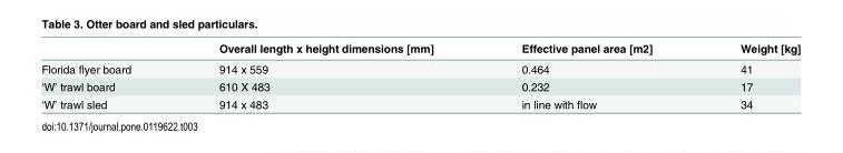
<table><thead><tr><td></td><td>Overall length x height dimensions [mm]</td><td>Effective panel area [m2]</td><td>Weight [kg]</td></tr></thead><tbody><tr><td>Florida flyer board</td><td>914 x 559</td><td>0.464</td><td>41</td></tr><tr><td>‘W’ trawl board</td><td>610 X 483</td><td>0.232</td><td>17</td></tr><tr><td>‘W’ trawl sled</td><td>914 x 483</td><td>in line with flow</td><td>34</td></tr></tbody></table>